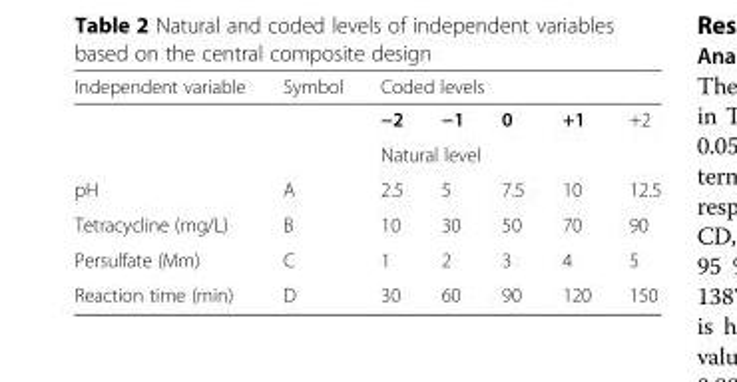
<table><thead><tr><td rowspan="2">Independent variable</td><td rowspan="2">Symbol</td><td colspan="5">Coded levels</td></tr><tr><td>−2</td><td>−1</td><td>0</td><td>+1</td><td>+2</td></tr></thead><tbody><tr><td></td><td></td><td colspan="5">Natural level</td></tr><tr><td>pH</td><td>A</td><td>2.5</td><td>5</td><td>7.5</td><td>10</td><td>12.5</td></tr><tr><td>Tetracycline (mg/L)</td><td>B</td><td>10</td><td>30</td><td>50</td><td>70</td><td>90</td></tr><tr><td>Persulfate (Mm)</td><td>C</td><td>1</td><td>2</td><td>3</td><td>4</td><td>5</td></tr><tr><td>Reaction time (min)</td><td>D</td><td>30</td><td>60</td><td>90</td><td>120</td><td>150</td></tr></tbody></table>